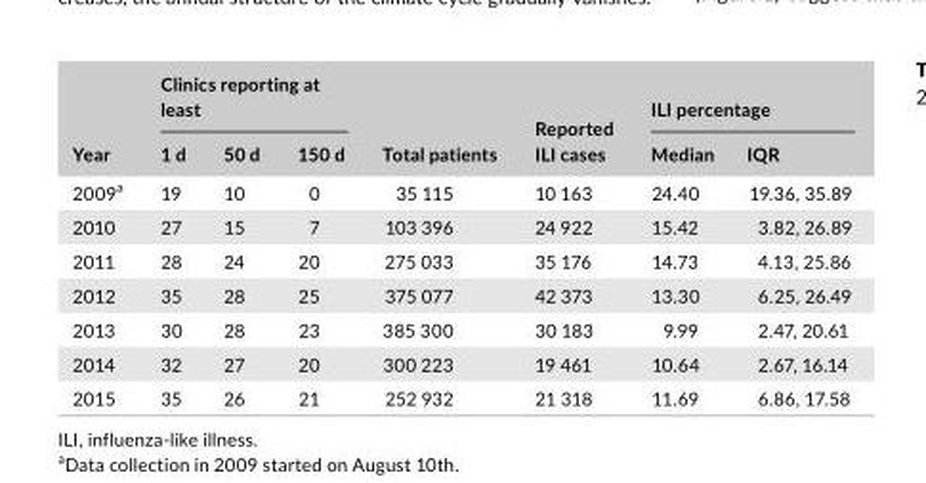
<table><thead><tr><td rowspan="2">Year</td><td colspan="3">Clinics reporting at least</td><td rowspan="2">Total patients</td><td rowspan="2">Reported ILI cases</td><td colspan="2">ILI percentage</td></tr><tr><td>1 d</td><td>50 d</td><td>150 d</td><td>Median</td><td>IQR</td></tr></thead><tbody><tr><td>2009<sup>a</sup></td><td>19</td><td>10</td><td>0</td><td>35 115</td><td>10 163</td><td>24.40</td><td>19.36, 35.89</td></tr><tr><td>2010</td><td>27</td><td>15</td><td>7</td><td>103 396</td><td>24 922</td><td>15.42</td><td>3.82, 26.89</td></tr><tr><td>2011</td><td>28</td><td>24</td><td>20</td><td>275 033</td><td>35 176</td><td>14.73</td><td>4.13, 25.86</td></tr><tr><td>2012</td><td>35</td><td>28</td><td>25</td><td>375 077</td><td>42 373</td><td>13.30</td><td>6.25, 26.49</td></tr><tr><td>2013</td><td>30</td><td>28</td><td>23</td><td>385 300</td><td>30 183</td><td>9.99</td><td>2.47, 20.61</td></tr><tr><td>2014</td><td>32</td><td>27</td><td>20</td><td>300 223</td><td>19 461</td><td>10.64</td><td>2.67, 16.14</td></tr><tr><td>2015</td><td>35</td><td>26</td><td>21</td><td>252 932</td><td>21 318</td><td>11.69</td><td>6.86, 17.58</td></tr></tbody></table>